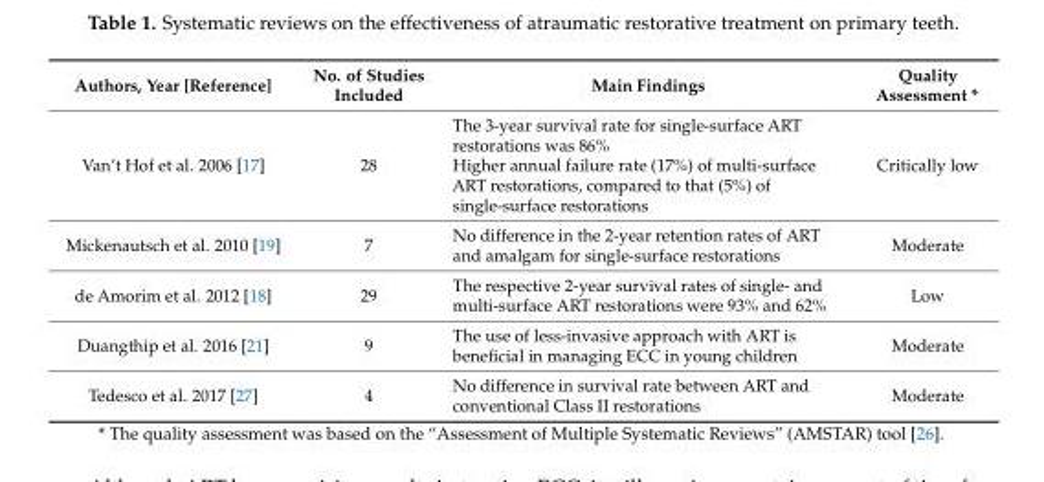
<table><thead><tr><td>Authors, Year [Reference]</td><td>No. of Studies Included</td><td>Main Findings</td><td>Quality Assessment *</td></tr></thead><tbody><tr><td>Van’t Hof et al. 2006 [17]</td><td>28</td><td>The 3-year survival rate for single-surface ART restorations was 86% Higher annual failure rate (17%) of multi-surface ART restorations, compared to that (5%) of single-surface restorations</td><td>Critically low</td></tr><tr><td>Mickenautsch et al. 2010 [19]</td><td>7</td><td>No difference in the 2-year retention rates of ART and amalgam for single-surface restorations</td><td>Moderate</td></tr><tr><td>de Amorim et al. 2012 [18]</td><td>29</td><td>The respective 2-year survival rates of single- and multi-surface ART restorations were 93% and 62%</td><td>Low</td></tr><tr><td>Duangthip et al. 2016 [21]</td><td>9</td><td>The use of less-invasive approach with ART is beneficial in managing ECC in young children</td><td>Moderate</td></tr><tr><td>Tedesco et al. 2017 [27]</td><td>4</td><td>No difference in survival rate between ART and conventional Class II restorations</td><td>Moderate</td></tr></tbody></table>